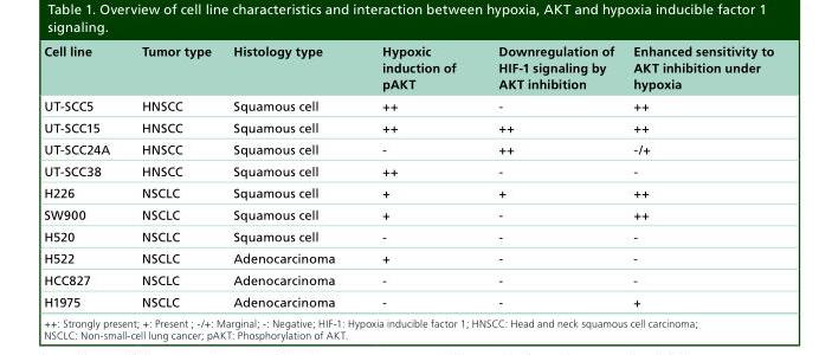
<table><thead><tr><td>Cell line</td><td>Tumor type</td><td>Histology type</td><td>Hypoxic induction of pAKT</td><td>Downregulation of HIF-1 signaling by AKT inhibition</td><td>Enhanced sensitivity to AKT inhibition under hypoxia</td></tr></thead><tbody><tr><td>UT-SCC5</td><td>HNSCC</td><td>Squamous cell</td><td>++</td><td>-</td><td>++</td></tr><tr><td>UT-SCC15</td><td>HNSCC</td><td>Squamous cell</td><td>++</td><td>++</td><td>++</td></tr><tr><td>UT-SCC24A</td><td>HNSCC</td><td>Squamous cell</td><td>-</td><td>++</td><td>-/+</td></tr><tr><td>UT-SCC38</td><td>HNSCC</td><td>Squamous cell</td><td>++</td><td>-</td><td>-</td></tr><tr><td>H226</td><td>NSCLC</td><td>Squamous cell</td><td>+</td><td>+</td><td>++</td></tr><tr><td>SW900</td><td>NSCLC</td><td>Squamous cell</td><td>+</td><td>-</td><td>++</td></tr><tr><td>H520</td><td>NSCLC</td><td>Squamous cell</td><td>-</td><td>-</td><td>-</td></tr><tr><td>H522</td><td>NSCLC</td><td>Adenocarcinoma</td><td>+</td><td>-</td><td>-</td></tr><tr><td>HCC827</td><td>NSCLC</td><td>Adenocarcinoma</td><td>-</td><td>-</td><td>-</td></tr><tr><td>H1975</td><td>NSCLC</td><td>Adenocarcinoma</td><td>-</td><td>-</td><td>+</td></tr></tbody></table>